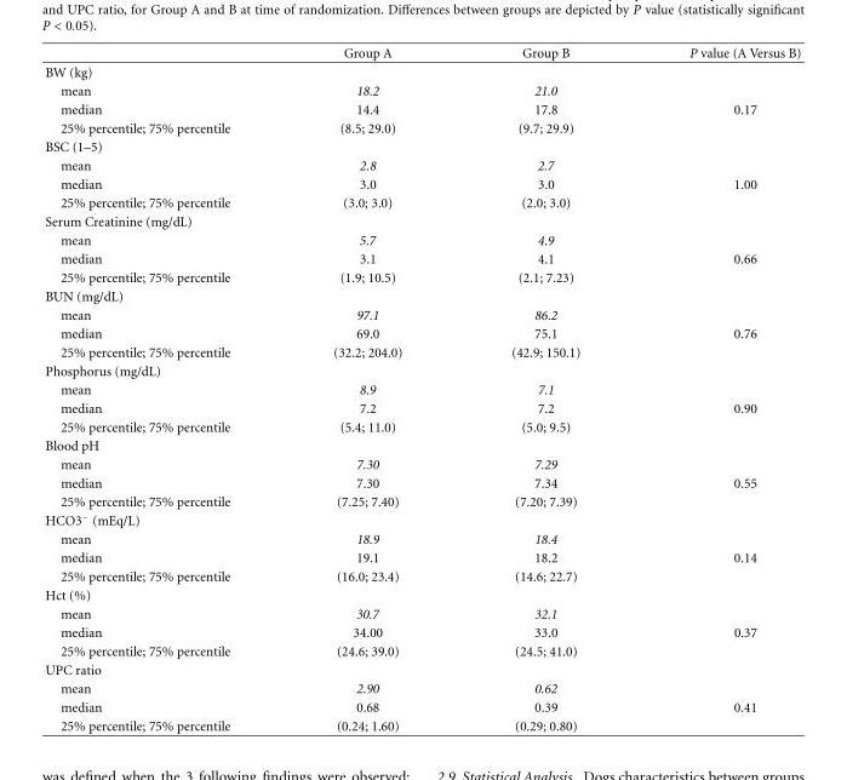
<table><thead><tr><td></td><td>Group A</td><td>Group B</td><td>P value (A Versus B)</td></tr></thead><tbody><tr><td colspan="4">BW (kg)</td></tr><tr><td>mean</td><td>18.2</td><td>21.0</td><td></td></tr><tr><td>median</td><td>14.4</td><td>17.8</td><td>0.17</td></tr><tr><td>25% percentile; 75% percentile</td><td>(8.5; 29.0)</td><td>(9.7; 29.9)</td><td></td></tr><tr><td colspan="4">BSC (1–5)</td></tr><tr><td>mean</td><td>2.8</td><td>2.7</td><td></td></tr><tr><td>median</td><td>3.0</td><td>3.0</td><td>1.00</td></tr><tr><td>25% percentile; 75% percentile</td><td>(3.0; 3.0)</td><td>(2.0; 3.0)</td><td></td></tr><tr><td colspan="4">Serum Creatinine (mg/dL)</td></tr><tr><td>mean</td><td>5.7</td><td>4.9</td><td></td></tr><tr><td>median</td><td>3.1</td><td>4.1</td><td>0.66</td></tr><tr><td>25% percentile; 75% percentile</td><td>(1.9; 10.5)</td><td>(2.1; 7.23)</td><td></td></tr><tr><td colspan="4">BUN (mg/dL)</td></tr><tr><td>mean</td><td>97.1</td><td>86.2</td><td></td></tr><tr><td>median</td><td>69.0</td><td>75.1</td><td>0.76</td></tr><tr><td>25% percentile; 75% percentile</td><td>(32.2; 204.0)</td><td>(42.9; 150.1)</td><td></td></tr><tr><td colspan="4">Phosphorus (mg/dL)</td></tr><tr><td>mean</td><td>8.9</td><td>7.1</td><td></td></tr><tr><td>median</td><td>7.2</td><td>7.2</td><td>0.90</td></tr><tr><td>25% percentile; 75% percentile</td><td>(5.4; 11.0)</td><td>(5.0; 9.5)</td><td></td></tr><tr><td colspan="4">Blood pH</td></tr><tr><td>mean</td><td>7.30</td><td>7.29</td><td></td></tr><tr><td>median</td><td>7.30</td><td>7.34</td><td>0.55</td></tr><tr><td>25% percentile; 75% percentile</td><td>(7.25; 7.40)</td><td>(7.20; 7.39)</td><td></td></tr><tr><td colspan="4">HCO3<sup>−</sup> (mEq/L)</td></tr><tr><td>mean</td><td>18.9</td><td>18.4</td><td></td></tr><tr><td>median</td><td>19.1</td><td>18.2</td><td>0.14</td></tr><tr><td>25% percentile; 75% percentile</td><td>(16.0; 23.4)</td><td>(14.6; 22.7)</td><td></td></tr><tr><td colspan="4">Hct (%)</td></tr><tr><td>mean</td><td>30.7</td><td>32.1</td><td></td></tr><tr><td>median</td><td>34.00</td><td>33.0</td><td>0.37</td></tr><tr><td>25% percentile; 75% percentile</td><td>(24.6; 39.0)</td><td>(24.5; 41.0)</td><td></td></tr><tr><td colspan="4">UPC ratio</td></tr><tr><td>mean</td><td>2.90</td><td>0.62</td><td></td></tr><tr><td>median</td><td>0.68</td><td>0.39</td><td>0.41</td></tr><tr><td>25% percentile; 75% percentile</td><td>(0.24; 1.60)</td><td>(0.29; 0.80)</td><td></td></tr></tbody></table>